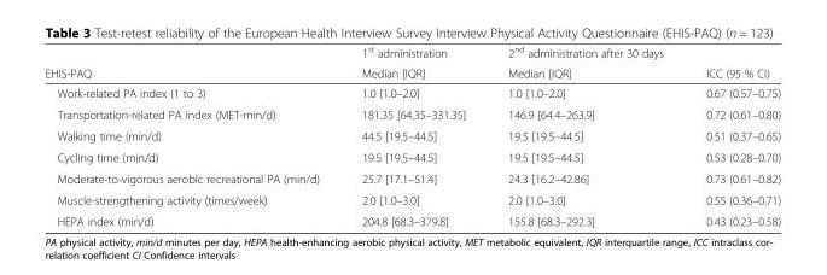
<table><thead><tr><td rowspan="2">EHIS-PAQ</td><td rowspan="2">1<sup>st</sup> administration Median [IQR]</td><td rowspan="2">2<sup>nd</sup> administration after 30 days Median [IQR]</td><td rowspan="2">ICC (95 % CI)</td></tr><tr></tr></thead><tbody><tr><td>Work-related PA index (1 to 3)</td><td>1.0 [1.0–2.0]</td><td>1.0 [1.0–2.0]</td><td>0.67 (0.57–0.75)</td></tr><tr><td>Transportation-related PA index (MET-min/d)</td><td>181.35 [64.35–331.35]</td><td>146.9 [64.4–263.9]</td><td>0.72 (0.61–0.80)</td></tr><tr><td>Walking time (min/d)</td><td>44.5 [19.5–44.5]</td><td>19.5 [19.5–44.5]</td><td>0.51 (0.37–0.65)</td></tr><tr><td>Cycling time (min/d)</td><td>19.5 [19.5–44.5]</td><td>19.5 [19.5–44.5]</td><td>0.53 (0.28–0.70)</td></tr><tr><td>Moderate-to-vigorous aerobic recreational PA (min/d)</td><td>25.7 [17.1–51.4]</td><td>24.3 [16.2–42.86]</td><td>0.73 (0.61–0.82)</td></tr><tr><td>Muscle-strengthening activity (times/week)</td><td>2.0 [1.0–3.0]</td><td>2.0 [1.0–3.0]</td><td>0.55 (0.36–0.71)</td></tr><tr><td>HEPA index (min/d)</td><td>204.8 [68.3–379.8]</td><td>155.8 [68.3–292.3]</td><td>0.43 (0.23–0.58)</td></tr></tbody></table>